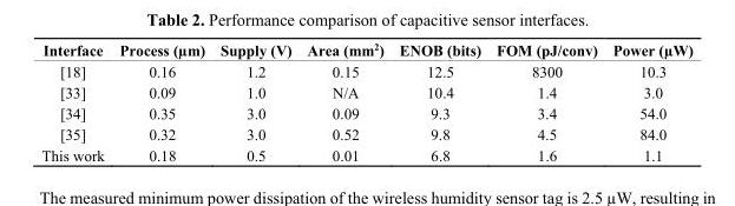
<table><thead><tr><td>Interface</td><td>Process (µm)</td><td>Supply (V)</td><td>Area (mm<sup>2</sup>)</td><td>ENOB (bits)</td><td>FOM (pJ/conv)</td><td>Power (µW)</td></tr></thead><tbody><tr><td>[18]</td><td>0.16</td><td>1.2</td><td>0.15</td><td>12.5</td><td>8300</td><td>10.3</td></tr><tr><td>[33]</td><td>0.09</td><td>1.0</td><td>N/A</td><td>10.4</td><td>1.4</td><td>3.0</td></tr><tr><td>[34]</td><td>0.35</td><td>3.0</td><td>0.09</td><td>9.3</td><td>3.4</td><td>54.0</td></tr><tr><td>[35]</td><td>0.32</td><td>3.0</td><td>0.52</td><td>9.8</td><td>4.5</td><td>84.0</td></tr><tr><td>This work</td><td>0.18</td><td>0.5</td><td>0.01</td><td>6.8</td><td>1.6</td><td>1.1</td></tr></tbody></table>